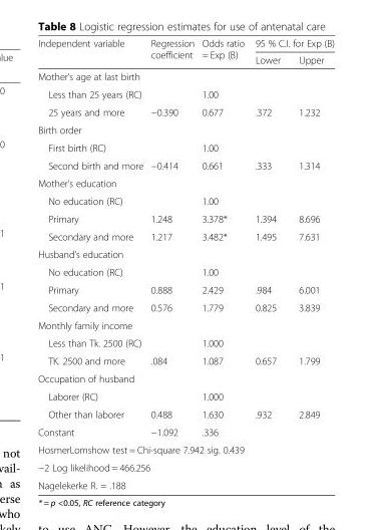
<table><thead><tr><td rowspan="2">Independent variable</td><td rowspan="2">Regression coefficient</td><td rowspan="2">Odds ratio = Exp (B)</td><td colspan="2">95 % C.I. for Exp (B)</td></tr><tr><td>Lower</td><td>Upper</td></tr></thead><tbody><tr><td colspan="5">Mother’s age at last birth</td></tr><tr><td>Less than 25 years (RC)</td><td></td><td>1.00</td><td></td><td></td></tr><tr><td>25 years and more</td><td>−0.390</td><td>0.677</td><td>.372</td><td>1.232</td></tr><tr><td colspan="5">Birth order</td></tr><tr><td>First birth (RC)</td><td></td><td>1.00</td><td></td><td></td></tr><tr><td>Second birth and more</td><td>−0.414</td><td>0.661</td><td>.333</td><td>1.314</td></tr><tr><td colspan="5">Mother’s education</td></tr><tr><td>No education (RC)</td><td></td><td>1.00</td><td></td><td></td></tr><tr><td>Primary</td><td>1.248</td><td>3.378*</td><td>1.394</td><td>8.696</td></tr><tr><td>Secondary and more</td><td>1.217</td><td>3.482*</td><td>1.495</td><td>7.631</td></tr><tr><td colspan="5">Husband’s education</td></tr><tr><td>No education (RC)</td><td></td><td>1.00</td><td></td><td></td></tr><tr><td>Primary</td><td>0.888</td><td>2.429</td><td>.984</td><td>6.001</td></tr><tr><td>Secondary and more</td><td>0.576</td><td>1.779</td><td>0.825</td><td>3.839</td></tr><tr><td colspan="5">Monthly family income</td></tr><tr><td>Less than Tk. 2500 (RC)</td><td></td><td>1.000</td><td></td><td></td></tr><tr><td>TK. 2500 and more</td><td>.084</td><td>1.087</td><td>0.657</td><td>1.799</td></tr><tr><td colspan="5">Occupation of husband</td></tr><tr><td>Laborer (RC)</td><td></td><td>1.000</td><td></td><td></td></tr><tr><td>Other than laborer</td><td>0.488</td><td>1.630</td><td>.932</td><td>2.849</td></tr><tr><td>Constant</td><td>−1.092</td><td>.336</td><td></td><td></td></tr><tr><td colspan="5">HosmerLomshow test = Chi-square 7.942 sig. 0.439</td></tr><tr><td colspan="5">−2 Log likelihood = 466.256</td></tr><tr><td colspan="5">Nagelekerke R. = .188</td></tr></tbody></table>